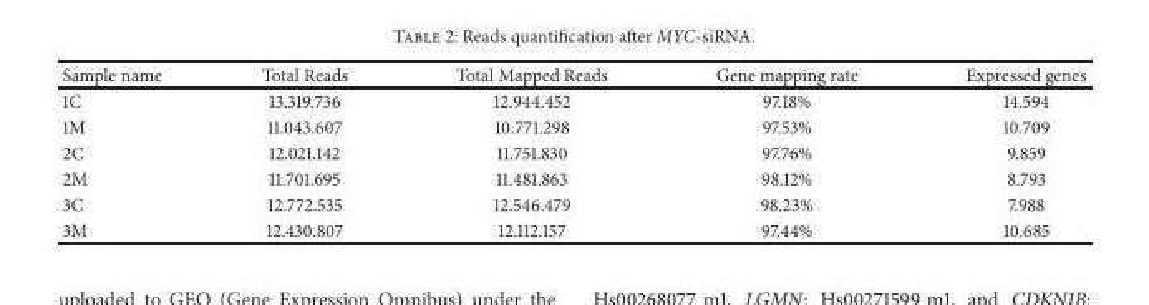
<table><thead><tr><td>Sample name</td><td>Total Reads</td><td>Total Mapped Reads</td><td>Gene mapping rate</td><td>Expressed genes</td></tr></thead><tbody><tr><td>1C</td><td>13.319.736</td><td>12.944.452</td><td>97.18%</td><td>14.594</td></tr><tr><td>1M</td><td>11.043.607</td><td>10.771.298</td><td>97.53%</td><td>10.709</td></tr><tr><td>2C</td><td>12.021.142</td><td>11.751.830</td><td>97.76%</td><td>9.859</td></tr><tr><td>2M</td><td>11.701.695</td><td>11.481.863</td><td>98.12%</td><td>8.793</td></tr><tr><td>3C</td><td>12.772.535</td><td>12.546.479</td><td>98.23%</td><td>7.988</td></tr><tr><td>3M</td><td>12.430.807</td><td>12.112.157</td><td>97.44%</td><td>10.685</td></tr></tbody></table>